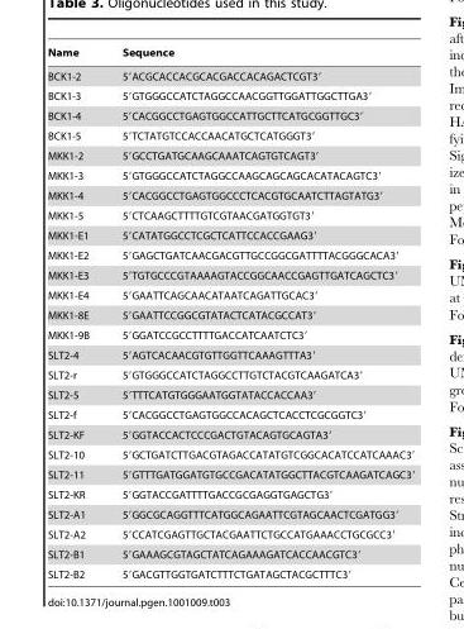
<table><thead><tr><td>Name</td><td>Sequence</td></tr></thead><tbody><tr><td>BCK1-2</td><td>5′ACGCACCACGCACGACCACAGACTCGT3′</td></tr><tr><td>BCK1-3</td><td>5′GTGGGCCATCTAGGCCAACGGTTGGATTGGCTTGA3′</td></tr><tr><td>BCK1-4</td><td>5′CACGGCCTGAGTGGCCATTGCTTCATGCGGTTGC3′</td></tr><tr><td>BCK1-5</td><td>5′TCTATGTCCACCAACATGCTCATGGGT3′</td></tr><tr><td>MKK1-2</td><td>5′GCCTGATGCAAGCAAATCAGTGTCAGT3′</td></tr><tr><td>MKK1-3</td><td>5′GTGGGCCATCTAGGCCAAGCAGCAGCACATACAGTC3′</td></tr><tr><td>MKK1-4</td><td>5′CACGGCCTGAGTGGCCCTCACGTGCAATCTTAGTATG3′</td></tr><tr><td>MKK1-5</td><td>5′CTCAAGCTTTTGTCGTAACGATGGTGT3′</td></tr><tr><td>MKK1-E1</td><td>5′CATATGGCCTCGCTCATTCCACCGAAG3′</td></tr><tr><td>MKK1-E2</td><td>5′GAGCTGATCAACGACGTTGCCGGCGATTTTACGGGCACA3′</td></tr><tr><td>MKK1-E3</td><td>5′TGTGCCCGTAAAAGTACCGGCAACCGAGTTGATCAGCTC3′</td></tr><tr><td>MKK1-E4</td><td>5′GAATTCAGCAACATAATCAGATTGCAC3′</td></tr><tr><td>MKK1-8E</td><td>5′GAATTCCGGCGTATACTCATACGCCAT3′</td></tr><tr><td>MKK1-9B</td><td>5′GGATCCGCCTTTTGACCATCAATCTC3′</td></tr><tr><td>SLT2-4</td><td>5′AGTCACAACGTGTTGGTTCAAAGTTTA3′</td></tr><tr><td>SLT2-r</td><td>5′GTGGGCCATCTAGGCCTTGTCTACGTCAAGATCA3′</td></tr><tr><td>SLT2-5</td><td>5′TTTCATGTGGGAATGGTATACCACCAA3′</td></tr><tr><td>SLT2-f</td><td>5′CACGGCCTGAGTGGCCACAGCTCACCTCGCGGTC3′</td></tr><tr><td>SLT2-KF</td><td>5′GGTACCACTCCCGACTGTACAGTGCAGTA3′</td></tr><tr><td>SLT2-10</td><td>5′GCTGATCTTGACGTAGACCATATGTCGGCACATCCATCAAAC3′</td></tr><tr><td>SLT2-11</td><td>5′GTTTGATGGATGTGCCGACATATGGCTTACGTCAAGATCAGC3′</td></tr><tr><td>SLT2-KR</td><td>5′GGTACCGATTTTGACCGCGAGGTGAGCTG3′</td></tr><tr><td>SLT2-A1</td><td>5′GGCGCAGGTTTCATGGCAGAATTCGTAGCAACTCGATGG3′</td></tr><tr><td>SLT2-A2</td><td>5′CCATCGAGTTGCTACGAATTCTGCCATGAAACCTGCGCC3′</td></tr><tr><td>SLT2-B1</td><td>5′GAAAGCGTAGCTATCAGAAAGATCACCAACGTC3′</td></tr><tr><td>SLT2-B2</td><td>5′GACGTTGGTGATCTTTCTGATAGCTACGCTTTC3′</td></tr></tbody></table>